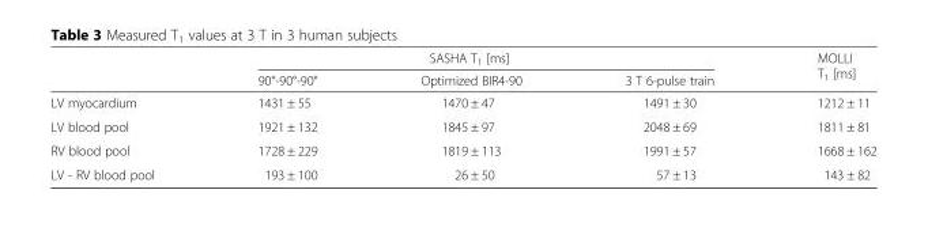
<table><thead><tr><td rowspan="2"></td><td colspan="3">SASHA T<sub>1</sub> [ms]</td><td rowspan="2">MOLLI T<sub>1</sub> [ms]</td></tr><tr><td>90°-90°-90°</td><td>Optimized BIR4-90</td><td>3 T 6-pulse train</td></tr></thead><tbody><tr><td>LV myocardium</td><td>1431 ± 55</td><td>1470 ± 47</td><td>1491 ± 30</td><td>1212 ± 11</td></tr><tr><td>LV blood pool</td><td>1921 ± 132</td><td>1845 ± 97</td><td>2048 ± 69</td><td>1811 ± 81</td></tr><tr><td>RV blood pool</td><td>1728 ± 229</td><td>1819 ± 113</td><td>1991 ± 57</td><td>1668 ± 162</td></tr><tr><td>LV - RV blood pool</td><td>193 ± 100</td><td>26 ± 50</td><td>57 ± 13</td><td>143 ± 82</td></tr></tbody></table>